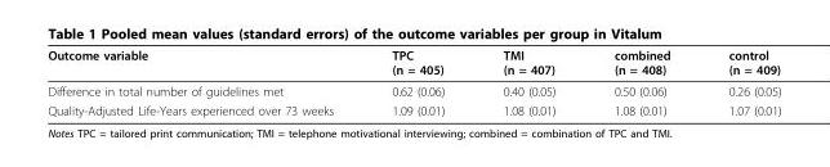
<table><thead><tr><td>Outcome variable</td><td>TPC (n = 405)</td><td>TMI (n = 407)</td><td>combined (n = 408)</td><td>control (n = 409)</td></tr></thead><tbody><tr><td>Difference in total number of guidelines met</td><td>0.62 (0.06)</td><td>0.40 (0.05)</td><td>0.50 (0.06)</td><td>0.26 (0.05)</td></tr><tr><td>Quality-Adjusted Life-Years experienced over 73 weeks</td><td>1.09 (0.01)</td><td>1.08 (0.01)</td><td>1.08 (0.01)</td><td>1.07 (0.01)</td></tr></tbody></table>